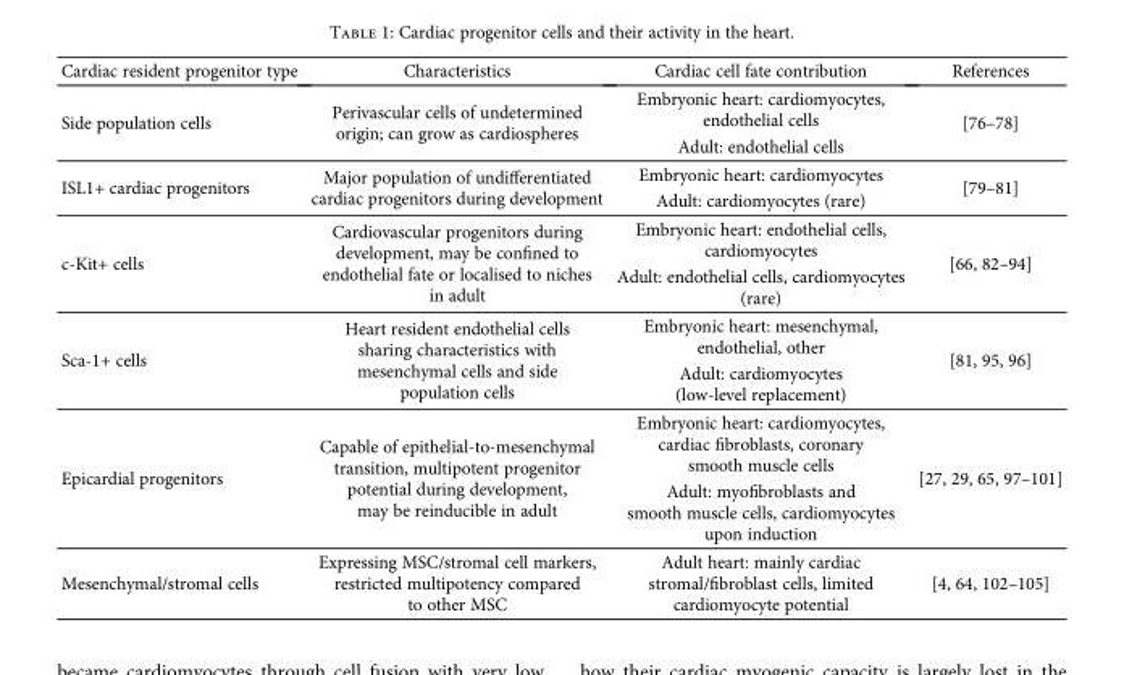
<table><thead><tr><td>Cardiac resident progenitor type</td><td>Characteristics</td><td>Cardiac cell fate contribution</td><td>References</td></tr></thead><tbody><tr><td rowspan="2">Side population cells</td><td rowspan="2">Perivascular cells of undetermined origin; can grow as cardiospheres</td><td>Embryonic heart: cardiomyocytes, endothelial cells</td><td rowspan="2">[76–78]</td></tr><tr><td>Adult: endothelial cells</td></tr><tr><td rowspan="2">ISL1+ cardiac progenitors</td><td rowspan="2">Major population of undifferentiated cardiac progenitors during development</td><td>Embryonic heart: cardiomyocytes</td><td rowspan="2">[79–81]</td></tr><tr><td>Adult: cardiomyocytes (rare)</td></tr><tr><td rowspan="2">c-Kit+ cells</td><td rowspan="2">Cardiovascular progenitors during development, may be confined to endothelial fate or localised to niches in adult</td><td>Embryonic heart: endothelial cells, cardiomyocytes</td><td rowspan="2">[66, 82–94]</td></tr><tr><td>Adult: endothelial cells, cardiomyocytes (rare)</td></tr><tr><td rowspan="2">Sca-1+ cells</td><td rowspan="2">Heart resident endothelial cells sharing characteristics with mesenchymal cells and side population cells</td><td>Embryonic heart: mesenchymal, endothelial, other</td><td rowspan="2">[81, 95, 96]</td></tr><tr><td>Adult: cardiomyocytes (low-level replacement)</td></tr><tr><td rowspan="2">Epicardial progenitors</td><td rowspan="2">Capable of epithelial-to-mesenchymal transition, multipotent progenitor potential during development, may be reinducible in adult</td><td>Embryonic heart: cardiomyocytes, cardiac fibroblasts, coronary smooth muscle cells</td><td rowspan="2">[27, 29, 65, 97–101]</td></tr><tr><td>Adult: myofibroblasts and smooth muscle cells, cardiomyocytes upon induction</td></tr><tr><td>Mesenchymal/stromal cells</td><td>Expressing MSC/stromal cell markers, restricted multipotency compared to other MSC</td><td>Adult heart: mainly cardiac stromal/fibroblast cells, limited cardiomyocyte potential</td><td>[4, 64, 102–105]</td></tr></tbody></table>